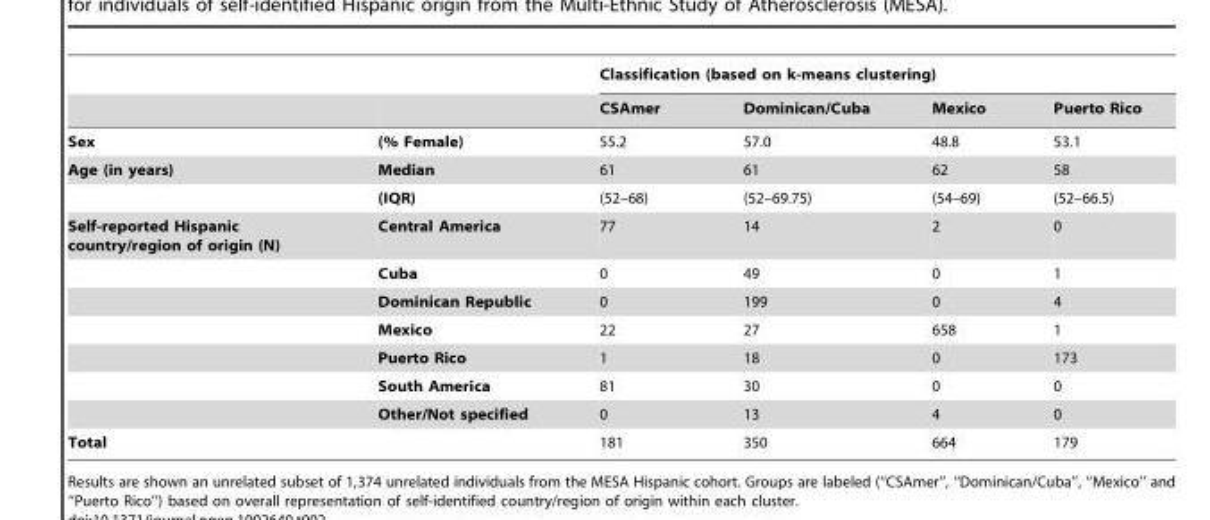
<table><thead><tr><td rowspan="2"></td><td rowspan="2"></td><td colspan="4">Classification (based on k-means clustering)</td></tr><tr><td>CSAmer</td><td>Dominican/Cuba</td><td>Mexico</td><td>Puerto Rico</td></tr></thead><tbody><tr><td>Sex</td><td>(% Female)</td><td>55.2</td><td>57.0</td><td>48.8</td><td>53.1</td></tr><tr><td rowspan="2">Age (in years)</td><td>Median</td><td>61</td><td>61</td><td>62</td><td>58</td></tr><tr><td>(IQR)</td><td>(52–68)</td><td>(52–69.75)</td><td>(54–69)</td><td>(52–66.5)</td></tr><tr><td rowspan="7">Self-reported Hispanic country/region of origin (N)</td><td>Central America</td><td>77</td><td>14</td><td>2</td><td>0</td></tr><tr><td>Cuba</td><td>0</td><td>49</td><td>0</td><td>1</td></tr><tr><td>Dominican Republic</td><td>0</td><td>199</td><td>0</td><td>4</td></tr><tr><td>Mexico</td><td>22</td><td>27</td><td>658</td><td>1</td></tr><tr><td>Puerto Rico</td><td>1</td><td>18</td><td>0</td><td>173</td></tr><tr><td>South America</td><td>81</td><td>30</td><td>0</td><td>0</td></tr><tr><td>Other/Not specified</td><td>0</td><td>13</td><td>4</td><td>0</td></tr><tr><td>Total</td><td></td><td>181</td><td>350</td><td>664</td><td>179</td></tr></tbody></table>